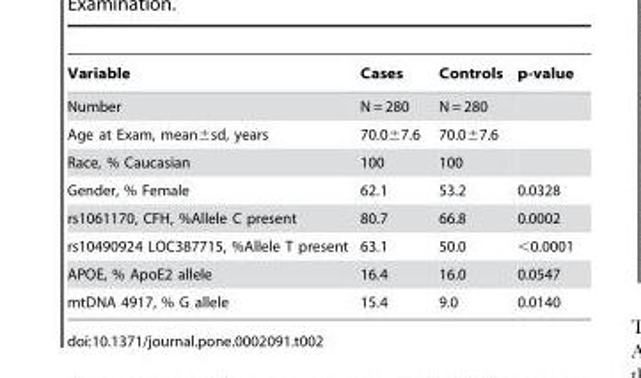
<table><thead><tr><td>Variable</td><td>Cases</td><td>Controls</td><td>p-value</td></tr></thead><tbody><tr><td>Number</td><td>N = 280</td><td>N = 280</td><td></td></tr><tr><td>Age at Exam, mean±sd, years</td><td>70.0±7.6</td><td>70.0±7.6</td><td></td></tr><tr><td>Race, % Caucasian</td><td>100</td><td>100</td><td></td></tr><tr><td>Gender, % Female</td><td>62.1</td><td>53.2</td><td>0.0328</td></tr><tr><td>rs1061170, CFH, %Allele C present</td><td>80.7</td><td>66.8</td><td>0.0002</td></tr><tr><td>rs10490924 LOC387715, %Allele T present</td><td>63.1</td><td>50.0</td><td>&lt;0.0001</td></tr><tr><td>APOE, % ApoE2 allele</td><td>16.4</td><td>16.0</td><td>0.0547</td></tr><tr><td>mtDNA 4917, % G allele</td><td>15.4</td><td>9.0</td><td>0.0140</td></tr></tbody></table>